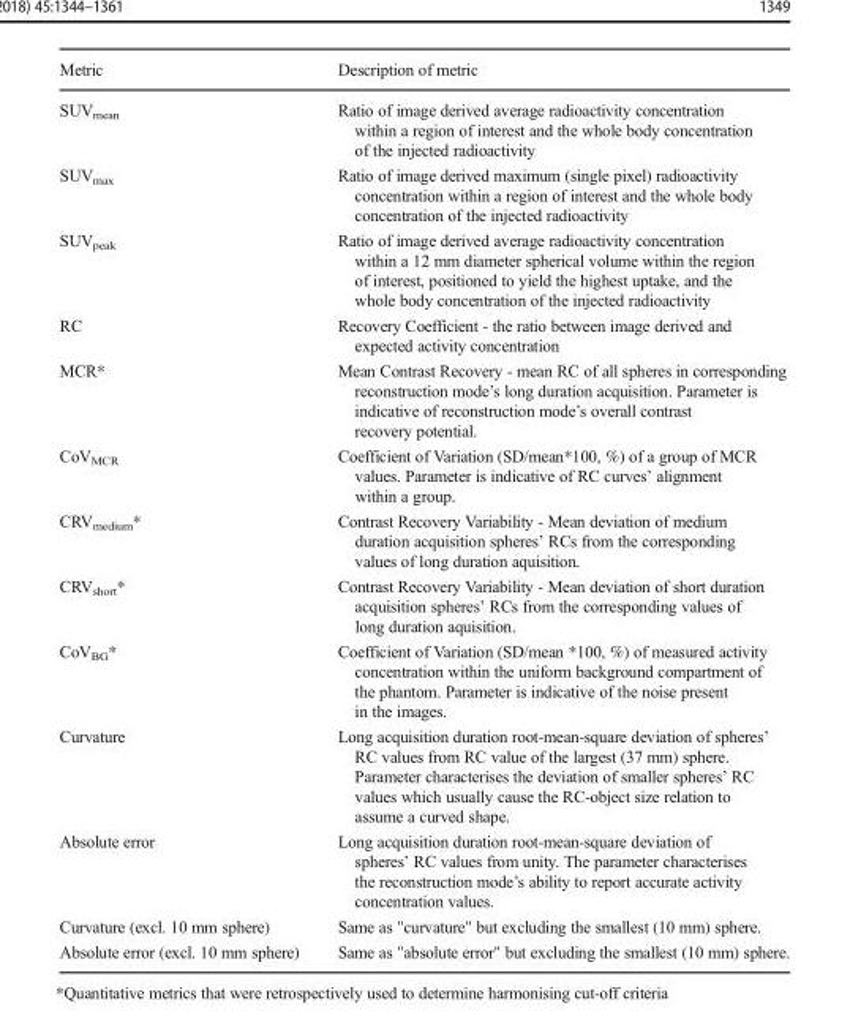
<table><thead><tr><td>Metric</td><td>Description of metric</td></tr></thead><tbody><tr><td>SUV<sub>mean</sub></td><td>Ratio of image derived average radioactivity concentration within a region of interest and the whole body concentration of the injected radioactivity</td></tr><tr><td>SUV<sub>max</sub></td><td>Ratio of image derived maximum (single pixel) radioactivity concentration within a region of interest and the whole body concentration of the injected radioactivity</td></tr><tr><td>SUV<sub>peak</sub></td><td>Ratio of image derived average radioactivity concentration within a 12 mm diameter spherical volume within the region of interest, positioned to yield the highest uptake, and the whole body concentration of the injected radioactivity</td></tr><tr><td>RC</td><td>Recovery Coefficient - the ratio between image derived and expected activity concentration</td></tr><tr><td>MCR*</td><td>Mean Contrast Recovery - mean RC of all spheres in corresponding reconstruction mode’s long duration acquisition. Parameter is indicative of reconstruction mode’s overall contrast recovery potential.</td></tr><tr><td>CoV<sub>MCR</sub></td><td>Coefficient of Variation (SD/mean*100, %) of a group of MCR values. Parameter is indicative of RC curves’ alignment within a group.</td></tr><tr><td>CRV<sub>medium</sub>*</td><td>Contrast Recovery Variability - Mean deviation of medium duration acquisition spheres’ RCs from the corresponding values of long duration aquisition.</td></tr><tr><td>CRV<sub>short</sub>*</td><td>Contrast Recovery Variability - Mean deviation of short duration acquisition spheres’ RCs from the corresponding values of long duration aquisition.</td></tr><tr><td>CoV<sub>BG</sub>*</td><td>Coefficient of Variation (SD/mean *100, %) of measured activity concentration within the uniform background compartment of the phantom. Parameter is indicative of the noise present in the images.</td></tr><tr><td>Curvature</td><td>Long acquisition duration root-mean-square deviation of spheres’ RC values from RC value of the largest (37 mm) sphere. Parameter characterises the deviation of smaller spheres’ RC values which usually cause the RC-object size relation to assume a curved shape.</td></tr><tr><td>Absolute error</td><td>Long acquisition duration root-mean-square deviation of spheres’ RC values from unity. The parameter characterises the reconstruction mode’s ability to report accurate activity concentration values.</td></tr><tr><td>Curvature (excl. 10 mm sphere)</td><td>Same as &quot;curvature&quot; but excluding the smallest (10 mm) sphere.</td></tr><tr><td>Absolute error (excl. 10 mm sphere)</td><td>Same as &quot;absolute error&quot; but excluding the smallest (10 mm) sphere.</td></tr></tbody></table>